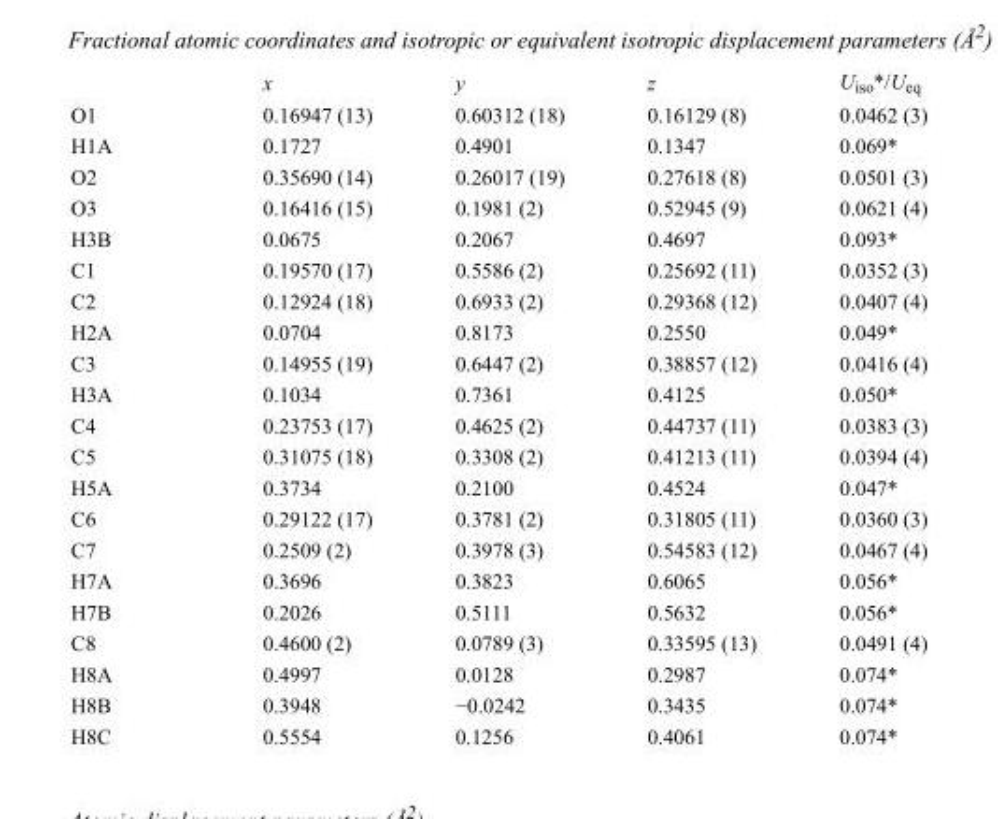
<table><thead><tr><td></td><td>x</td><td>y</td><td>z</td><td>U<sub>iso</sub>*/U<sub>eq</sub></td></tr></thead><tbody><tr><td>O1</td><td>0.16947 (13)</td><td>0.60312 (18)</td><td>0.16129 (8)</td><td>0.0462 (3)</td></tr><tr><td>H1A</td><td>0.1727</td><td>0.4901</td><td>0.1347</td><td>0.069*</td></tr><tr><td>O2</td><td>0.35690 (14)</td><td>0.26017 (19)</td><td>0.27618 (8)</td><td>0.0501 (3)</td></tr><tr><td>O3</td><td>0.16416 (15)</td><td>0.1981 (2)</td><td>0.52945 (9)</td><td>0.0621 (4)</td></tr><tr><td>H3B</td><td>0.0675</td><td>0.2067</td><td>0.4697</td><td>0.093*</td></tr><tr><td>C1</td><td>0.19570 (17)</td><td>0.5586 (2)</td><td>0.25692 (11)</td><td>0.0352 (3)</td></tr><tr><td>C2</td><td>0.12924 (18)</td><td>0.6933 (2)</td><td>0.29368 (12)</td><td>0.0407 (4)</td></tr><tr><td>H2A</td><td>0.0704</td><td>0.8173</td><td>0.2550</td><td>0.049*</td></tr><tr><td>C3</td><td>0.14955 (19)</td><td>0.6447 (2)</td><td>0.38857 (12)</td><td>0.0416 (4)</td></tr><tr><td>H3A</td><td>0.1034</td><td>0.7361</td><td>0.4125</td><td>0.050*</td></tr><tr><td>C4</td><td>0.23753 (17)</td><td>0.4625 (2)</td><td>0.44737 (11)</td><td>0.0383 (3)</td></tr><tr><td>C5</td><td>0.31075 (18)</td><td>0.3308 (2)</td><td>0.41213 (11)</td><td>0.0394 (4)</td></tr><tr><td>H5A</td><td>0.3734</td><td>0.2100</td><td>0.4524</td><td>0.047*</td></tr><tr><td>C6</td><td>0.29122 (17)</td><td>0.3781 (2)</td><td>0.31805 (11)</td><td>0.0360 (3)</td></tr><tr><td>C7</td><td>0.2509 (2)</td><td>0.3978 (3)</td><td>0.54583 (12)</td><td>0.0467 (4)</td></tr><tr><td>H7A</td><td>0.3696</td><td>0.3823</td><td>0.6065</td><td>0.056*</td></tr><tr><td>H7B</td><td>0.2026</td><td>0.5111</td><td>0.5632</td><td>0.056*</td></tr><tr><td>C8</td><td>0.4600 (2)</td><td>0.0789 (3)</td><td>0.33595 (13)</td><td>0.0491 (4)</td></tr><tr><td>H8A</td><td>0.4997</td><td>0.0128</td><td>0.2987</td><td>0.074*</td></tr><tr><td>H8B</td><td>0.3948</td><td>−0.0242</td><td>0.3435</td><td>0.074*</td></tr><tr><td>H8C</td><td>0.5554</td><td>0.1256</td><td>0.4061</td><td>0.074*</td></tr></tbody></table>